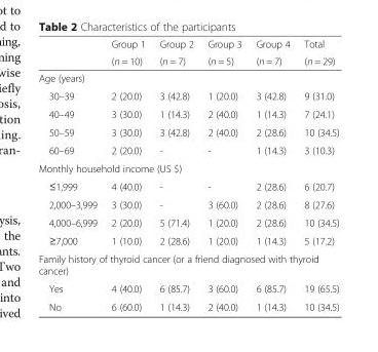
<table><thead><tr><td rowspan="2"></td><td rowspan="2">Group 1 (n = 10)</td><td rowspan="2">Group 2 (n = 7)</td><td rowspan="2">Group 3 (n = 5)</td><td rowspan="2">Group 4 (n = 7)</td><td rowspan="2">Total (n = 29)</td></tr><tr></tr></thead><tbody><tr><td colspan="6">Age (years)</td></tr><tr><td>30–39</td><td>2 (20.0)</td><td>3 (42.8)</td><td>1 (20.0)</td><td>3 (42.8)</td><td>9 (31.0)</td></tr><tr><td>40–49</td><td>3 (30.0)</td><td>1 (14.3)</td><td>2 (40.0)</td><td>1 (14.3)</td><td>7 (24.1)</td></tr><tr><td>50–59</td><td>3 (30.0)</td><td>3 (42.8)</td><td>2 (40.0)</td><td>2 (28.6)</td><td>10 (34.5)</td></tr><tr><td>60–69</td><td>2 (20.0)</td><td>-</td><td>-</td><td>1 (14.3)</td><td>3 (10.3)</td></tr><tr><td colspan="6">Monthly household income (US $)</td></tr><tr><td>≤1,999</td><td>4 (40.0)</td><td>-</td><td>-</td><td>2 (28.6)</td><td>6 (20.7)</td></tr><tr><td>2,000–3,999</td><td>3 (30.0)</td><td>-</td><td>3 (60.0)</td><td>2 (28.6)</td><td>8 (27.6)</td></tr><tr><td>4,000–6,999</td><td>2 (20.0)</td><td>5 (71.4)</td><td>1 (20.0)</td><td>2 (28.6)</td><td>10 (34.5)</td></tr><tr><td>≥7,000</td><td>1 (10.0)</td><td>2 (28.6)</td><td>1 (20.0)</td><td>1 (14.3)</td><td>5 (17.2)</td></tr><tr><td colspan="6">Family history of thyroid cancer (or a friend diagnosed with thyroid cancer)</td></tr><tr><td>Yes</td><td>4 (40.0)</td><td>6 (85.7)</td><td>3 (60.0)</td><td>6 (85.7)</td><td>19 (65.5)</td></tr><tr><td>No</td><td>6 (60.0)</td><td>1 (14.3)</td><td>2 (40.0)</td><td>1 (14.3)</td><td>10 (34.5)</td></tr></tbody></table>